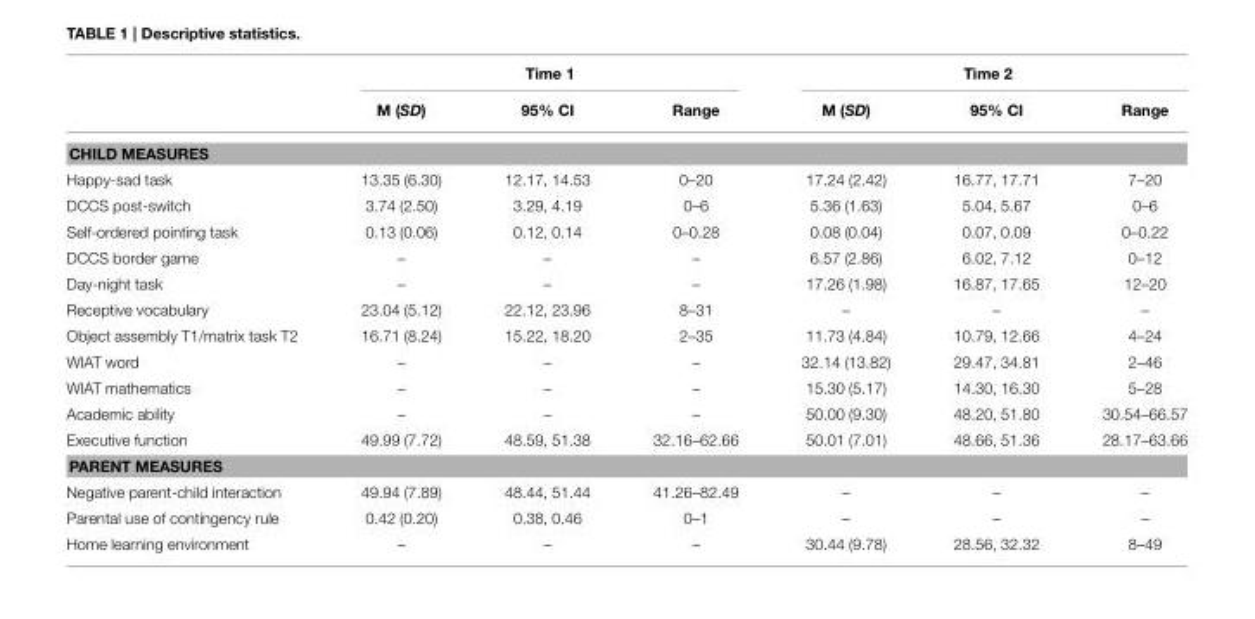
<table><thead><tr><td rowspan="2"></td><td colspan="3">Time 1</td><td colspan="3">Time 2</td></tr><tr><td>M (SD)</td><td>95% CI</td><td>Range</td><td>M (SD)</td><td>95% CI</td><td>Range</td></tr></thead><tbody><tr><td colspan="7">CHILD MEASURES</td></tr><tr><td>Happy-sad task</td><td>13.35 (6.30)</td><td>12.17, 14.53</td><td>0–20</td><td>17.24 (2.42)</td><td>16.77, 17.71</td><td>7–20</td></tr><tr><td>DCCS post-switch</td><td>3.74 (2.50)</td><td>3.29, 4.19</td><td>0–6</td><td>5.36 (1.63)</td><td>5.04, 5.67</td><td>0–6</td></tr><tr><td>Self-ordered pointing task</td><td>0.13 (0.06)</td><td>0.12, 0.14</td><td>0–0.28</td><td>0.08 (0.04)</td><td>0.07, 0.09</td><td>0–0.22</td></tr><tr><td>DCCS border game</td><td>–</td><td>–</td><td>–</td><td>6.57 (2.86)</td><td>6.02, 7.12</td><td>0–12</td></tr><tr><td>Day-night task</td><td>–</td><td>–</td><td>–</td><td>17.26 (1.98)</td><td>16.87, 17.65</td><td>12–20</td></tr><tr><td>Receptive vocabulary</td><td>23.04 (5.12)</td><td>22.12, 23.96</td><td>8–31</td><td>–</td><td>–</td><td>–</td></tr><tr><td>Object assembly T1/matrix task T2</td><td>16.71 (8.24)</td><td>15.22, 18.20</td><td>2–35</td><td>11.73 (4.84)</td><td>10.79, 12.66</td><td>4–24</td></tr><tr><td>WIAT word</td><td>–</td><td>–</td><td>–</td><td>32.14 (13.82)</td><td>29.47, 34.81</td><td>2–46</td></tr><tr><td>WIAT mathematics</td><td>–</td><td>–</td><td>–</td><td>15.30 (5.17)</td><td>14.30, 16.30</td><td>5–28</td></tr><tr><td>Academic ability</td><td>–</td><td>–</td><td>–</td><td>50.00 (9.30)</td><td>48.20, 51.80</td><td>30.54–66.57</td></tr><tr><td>Executive function</td><td>49.99 (7.72)</td><td>48.59, 51.38</td><td>32.16–62.66</td><td>50.01 (7.01)</td><td>48.66, 51.36</td><td>28.17–63.66</td></tr><tr><td colspan="7">PARENT MEASURES</td></tr><tr><td>Negative parent-child interaction</td><td>49.94 (7.89)</td><td>48.44, 51.44</td><td>41.26–82.49</td><td>–</td><td>–</td><td>–</td></tr><tr><td>Parental use of contingency rule</td><td>0.42 (0.20)</td><td>0.38, 0.46</td><td>0–1</td><td>–</td><td>–</td><td>–</td></tr><tr><td>Home learning environment</td><td>–</td><td>–</td><td>–</td><td>30.44 (9.78)</td><td>28.56, 32.32</td><td>8–49</td></tr></tbody></table>